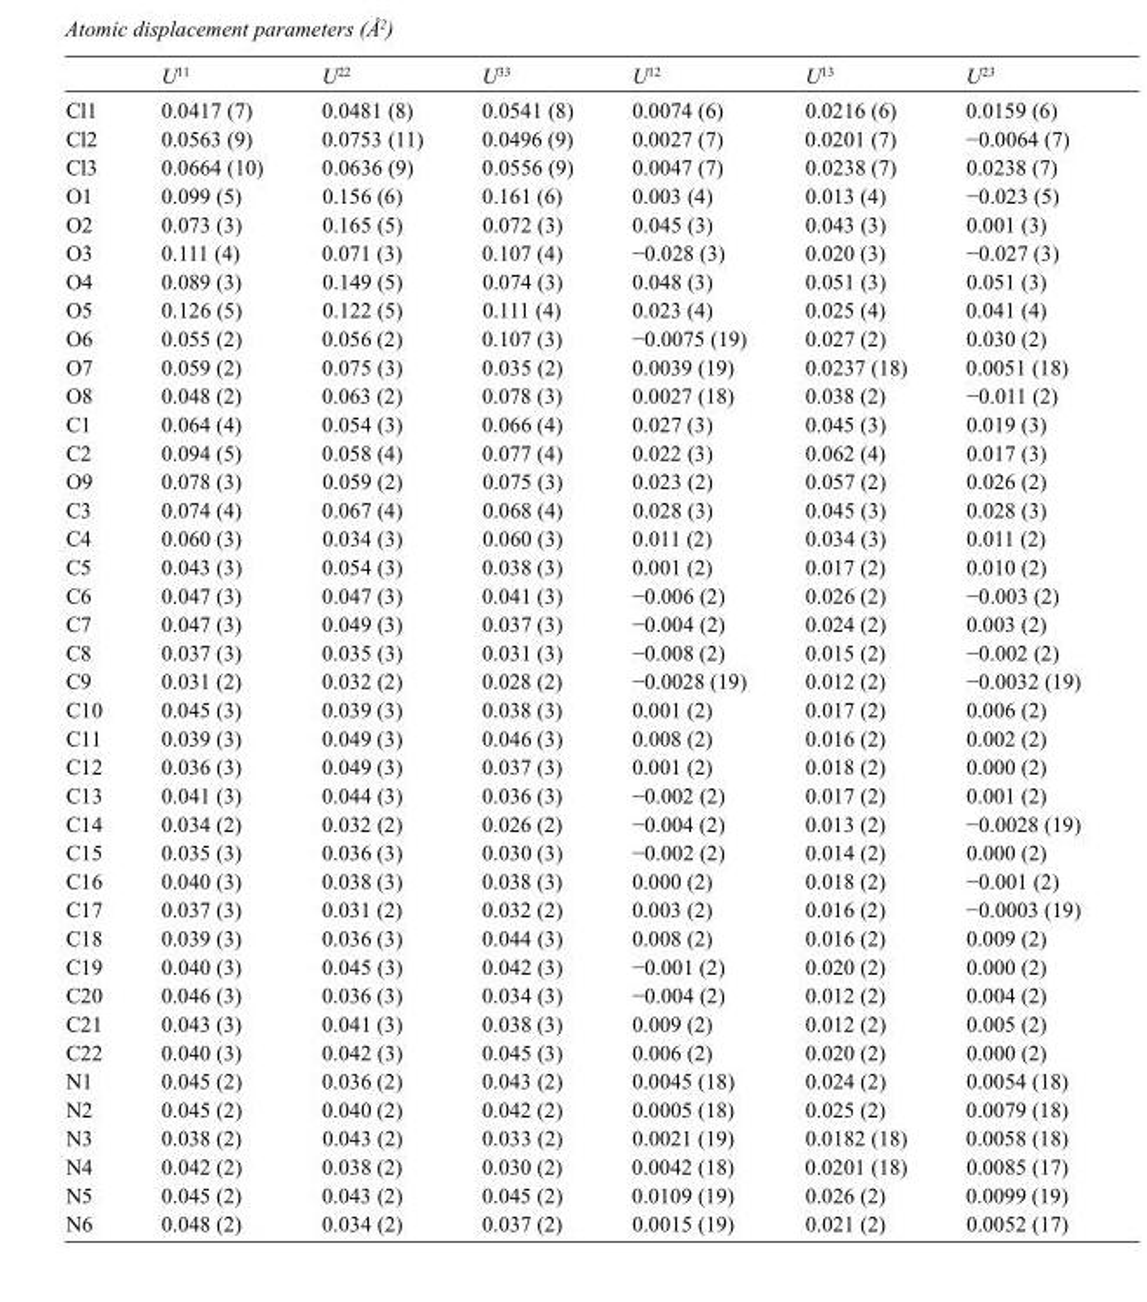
<table><thead><tr><td></td><td>U<sup>11</sup></td><td>U<sup>22</sup></td><td>U<sup>33</sup></td><td>U<sup>12</sup></td><td>U<sup>13</sup></td><td>U<sup>23</sup></td></tr></thead><tbody><tr><td>Cl1</td><td>0.0417 (7)</td><td>0.0481 (8)</td><td>0.0541 (8)</td><td>0.0074 (6)</td><td>0.0216 (6)</td><td>0.0159 (6)</td></tr><tr><td>Cl2</td><td>0.0563 (9)</td><td>0.0753 (11)</td><td>0.0496 (9)</td><td>0.0027 (7)</td><td>0.0201 (7)</td><td>−0.0064 (7)</td></tr><tr><td>Cl3</td><td>0.0664 (10)</td><td>0.0636 (9)</td><td>0.0556 (9)</td><td>0.0047 (7)</td><td>0.0238 (7)</td><td>0.0238 (7)</td></tr><tr><td>O1</td><td>0.099 (5)</td><td>0.156 (6)</td><td>0.161 (6)</td><td>0.003 (4)</td><td>0.013 (4)</td><td>−0.023 (5)</td></tr><tr><td>O2</td><td>0.073 (3)</td><td>0.165 (5)</td><td>0.072 (3)</td><td>0.045 (3)</td><td>0.043 (3)</td><td>0.001 (3)</td></tr><tr><td>O3</td><td>0.111 (4)</td><td>0.071 (3)</td><td>0.107 (4)</td><td>−0.028 (3)</td><td>0.020 (3)</td><td>−0.027 (3)</td></tr><tr><td>O4</td><td>0.089 (3)</td><td>0.149 (5)</td><td>0.074 (3)</td><td>0.048 (3)</td><td>0.051 (3)</td><td>0.051 (3)</td></tr><tr><td>O5</td><td>0.126 (5)</td><td>0.122 (5)</td><td>0.111 (4)</td><td>0.023 (4)</td><td>0.025 (4)</td><td>0.041 (4)</td></tr><tr><td>O6</td><td>0.055 (2)</td><td>0.056 (2)</td><td>0.107 (3)</td><td>−0.0075 (19)</td><td>0.027 (2)</td><td>0.030 (2)</td></tr><tr><td>O7</td><td>0.059 (2)</td><td>0.075 (3)</td><td>0.035 (2)</td><td>0.0039 (19)</td><td>0.0237 (18)</td><td>0.0051 (18)</td></tr><tr><td>O8</td><td>0.048 (2)</td><td>0.063 (2)</td><td>0.078 (3)</td><td>0.0027 (18)</td><td>0.038 (2)</td><td>−0.011 (2)</td></tr><tr><td>C1</td><td>0.064 (4)</td><td>0.054 (3)</td><td>0.066 (4)</td><td>0.027 (3)</td><td>0.045 (3)</td><td>0.019 (3)</td></tr><tr><td>C2</td><td>0.094 (5)</td><td>0.058 (4)</td><td>0.077 (4)</td><td>0.022 (3)</td><td>0.062 (4)</td><td>0.017 (3)</td></tr><tr><td>O9</td><td>0.078 (3)</td><td>0.059 (2)</td><td>0.075 (3)</td><td>0.023 (2)</td><td>0.057 (2)</td><td>0.026 (2)</td></tr><tr><td>C3</td><td>0.074 (4)</td><td>0.067 (4)</td><td>0.068 (4)</td><td>0.028 (3)</td><td>0.045 (3)</td><td>0.028 (3)</td></tr><tr><td>C4</td><td>0.060 (3)</td><td>0.034 (3)</td><td>0.060 (3)</td><td>0.011 (2)</td><td>0.034 (3)</td><td>0.011 (2)</td></tr><tr><td>C5</td><td>0.043 (3)</td><td>0.054 (3)</td><td>0.038 (3)</td><td>0.001 (2)</td><td>0.017 (2)</td><td>0.010 (2)</td></tr><tr><td>C6</td><td>0.047 (3)</td><td>0.047 (3)</td><td>0.041 (3)</td><td>−0.006 (2)</td><td>0.026 (2)</td><td>−0.003 (2)</td></tr><tr><td>C7</td><td>0.047 (3)</td><td>0.049 (3)</td><td>0.037 (3)</td><td>−0.004 (2)</td><td>0.024 (2)</td><td>0.003 (2)</td></tr><tr><td>C8</td><td>0.037 (3)</td><td>0.035 (3)</td><td>0.031 (3)</td><td>−0.008 (2)</td><td>0.015 (2)</td><td>−0.002 (2)</td></tr><tr><td>C9</td><td>0.031 (2)</td><td>0.032 (2)</td><td>0.028 (2)</td><td>−0.0028 (19)</td><td>0.012 (2)</td><td>−0.0032 (19)</td></tr><tr><td>C10</td><td>0.045 (3)</td><td>0.039 (3)</td><td>0.038 (3)</td><td>0.001 (2)</td><td>0.017 (2)</td><td>0.006 (2)</td></tr><tr><td>C11</td><td>0.039 (3)</td><td>0.049 (3)</td><td>0.046 (3)</td><td>0.008 (2)</td><td>0.016 (2)</td><td>0.002 (2)</td></tr><tr><td>C12</td><td>0.036 (3)</td><td>0.049 (3)</td><td>0.037 (3)</td><td>0.001 (2)</td><td>0.018 (2)</td><td>0.000 (2)</td></tr><tr><td>C13</td><td>0.041 (3)</td><td>0.044 (3)</td><td>0.036 (3)</td><td>−0.002 (2)</td><td>0.017 (2)</td><td>0.001 (2)</td></tr><tr><td>C14</td><td>0.034 (2)</td><td>0.032 (2)</td><td>0.026 (2)</td><td>−0.004 (2)</td><td>0.013 (2)</td><td>−0.0028 (19)</td></tr><tr><td>C15</td><td>0.035 (3)</td><td>0.036 (3)</td><td>0.030 (3)</td><td>−0.002 (2)</td><td>0.014 (2)</td><td>0.000 (2)</td></tr><tr><td>C16</td><td>0.040 (3)</td><td>0.038 (3)</td><td>0.038 (3)</td><td>0.000 (2)</td><td>0.018 (2)</td><td>−0.001 (2)</td></tr><tr><td>C17</td><td>0.037 (3)</td><td>0.031 (2)</td><td>0.032 (2)</td><td>0.003 (2)</td><td>0.016 (2)</td><td>−0.0003 (19)</td></tr><tr><td>C18</td><td>0.039 (3)</td><td>0.036 (3)</td><td>0.044 (3)</td><td>0.008 (2)</td><td>0.016 (2)</td><td>0.009 (2)</td></tr><tr><td>C19</td><td>0.040 (3)</td><td>0.045 (3)</td><td>0.042 (3)</td><td>−0.001 (2)</td><td>0.020 (2)</td><td>0.000 (2)</td></tr><tr><td>C20</td><td>0.046 (3)</td><td>0.036 (3)</td><td>0.034 (3)</td><td>−0.004 (2)</td><td>0.012 (2)</td><td>0.004 (2)</td></tr><tr><td>C21</td><td>0.043 (3)</td><td>0.041 (3)</td><td>0.038 (3)</td><td>0.009 (2)</td><td>0.012 (2)</td><td>0.005 (2)</td></tr><tr><td>C22</td><td>0.040 (3)</td><td>0.042 (3)</td><td>0.045 (3)</td><td>0.006 (2)</td><td>0.020 (2)</td><td>0.000 (2)</td></tr><tr><td>N1</td><td>0.045 (2)</td><td>0.036 (2)</td><td>0.043 (2)</td><td>0.0045 (18)</td><td>0.024 (2)</td><td>0.0054 (18)</td></tr><tr><td>N2</td><td>0.045 (2)</td><td>0.040 (2)</td><td>0.042 (2)</td><td>0.0005 (18)</td><td>0.025 (2)</td><td>0.0079 (18)</td></tr><tr><td>N3</td><td>0.038 (2)</td><td>0.043 (2)</td><td>0.033 (2)</td><td>0.0021 (19)</td><td>0.0182 (18)</td><td>0.0058 (18)</td></tr><tr><td>N4</td><td>0.042 (2)</td><td>0.038 (2)</td><td>0.030 (2)</td><td>0.0042 (18)</td><td>0.0201 (18)</td><td>0.0085 (17)</td></tr><tr><td>N5</td><td>0.045 (2)</td><td>0.043 (2)</td><td>0.045 (2)</td><td>0.0109 (19)</td><td>0.026 (2)</td><td>0.0099 (19)</td></tr><tr><td>N6</td><td>0.048 (2)</td><td>0.034 (2)</td><td>0.037 (2)</td><td>0.0015 (19)</td><td>0.021 (2)</td><td>0.0052 (17)</td></tr></tbody></table>